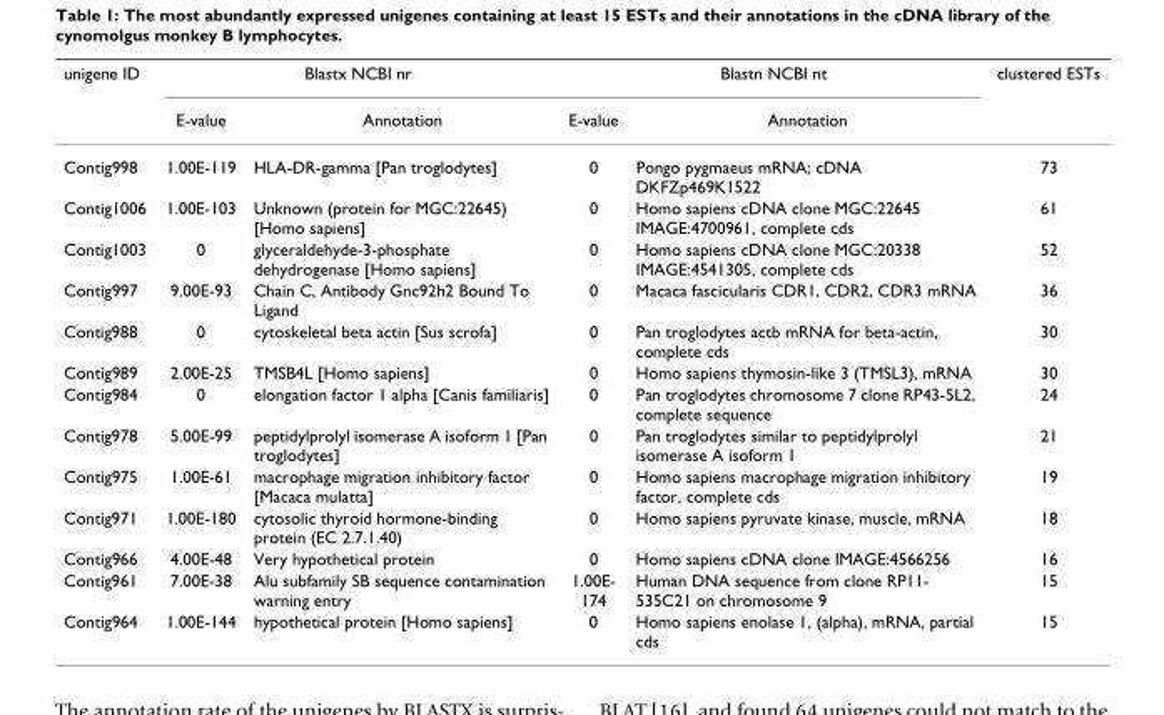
<table><thead><tr><td rowspan="2">unigene ID</td><td colspan="2">Blastx NCBI nr</td><td colspan="2">Blastn NCBI nt</td><td rowspan="2">clustered ESTs</td></tr><tr><td>E-value</td><td>Annotation</td><td>E-value</td><td>Annotation</td></tr></thead><tbody><tr><td>Contig998</td><td>1.00E-119</td><td>HLA-DR-gamma [Pan troglodytes]</td><td>0</td><td>Pongo pygmaeus mRNA; cDNA DKFZp469K1522</td><td>73</td></tr><tr><td>Contig1006</td><td>1.00E-103</td><td>Unknown (protein for MGC:22645) [Homo sapiens]</td><td>0</td><td>Homo sapiens cDNA clone MGC:22645 IMAGE:4700961, complete cds</td><td>61</td></tr><tr><td>Contig1003</td><td>0</td><td>glyceraldehyde-3-phosphate dehydrogenase [Homo sapiens]</td><td>0</td><td>Homo sapiens cDNA clone MGC:20338 IMAGE:4541305, complete cds</td><td>52</td></tr><tr><td>Contig997</td><td>9.00E-93</td><td>Chain C, Antibody Gnc92h2 Bound To Ligand</td><td>0</td><td>Macaca fascicularis CDR1, CDR2, CDR3 mRNA</td><td>36</td></tr><tr><td>Contig988</td><td>0</td><td>cytoskeletal beta actin [Sus scrofa]</td><td>0</td><td>Pan troglodytes actb mRNA for beta-actin, complete cds</td><td>30</td></tr><tr><td>Contig989</td><td>2.00E-25</td><td>TMSB4L [Homo sapiens]</td><td>0</td><td>Homo sapiens thymosin-like 3 (TMSL3), mRNA</td><td>30</td></tr><tr><td>Contig984</td><td>0</td><td>elongation factor 1 alpha [Canis familiaris]</td><td>0</td><td>Pan troglodytes chromosome 7 clone RP43-5L2, complete sequence</td><td>24</td></tr><tr><td>Contig978</td><td>5.00E-99</td><td>peptidylprolyl isomerase A isoform 1 [Pan troglodytes]</td><td>0</td><td>Pan troglodytes similar to peptidylprolyl isomerase A isoform 1</td><td>21</td></tr><tr><td>Contig975</td><td>1.00E-61</td><td>macrophage migration inhibitory factor [Macaca mulatta]</td><td>0</td><td>Homo sapiens macrophage migration inhibitory factor, complete cds</td><td>19</td></tr><tr><td>Contig971</td><td>1.00E-180</td><td>cytosolic thyroid hormone-binding protein (EC 2.7.1.40)</td><td>0</td><td>Homo sapiens pyruvate kinase, muscle, mRNA</td><td>18</td></tr><tr><td>Contig966</td><td>4.00E-48</td><td>Very hypothetical protein</td><td>0</td><td>Homo sapiens cDNA clone IMAGE:4566256</td><td>16</td></tr><tr><td>Contig961</td><td>7.00E-38</td><td>Alu subfamily SB sequence contamination warning entry</td><td>1.00E- 174</td><td>Human DNA sequence from clone RP11- 535C21 on chromosome 9</td><td>15</td></tr><tr><td>Contig964</td><td>1.00E-144</td><td>hypothetical protein [Homo sapiens]</td><td>0</td><td>Homo sapiens enolase 1, (alpha), mRNA, partial cds</td><td>15</td></tr></tbody></table>